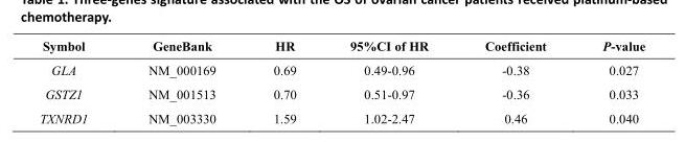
<table><thead><tr><td>Symbol</td><td>GeneBank</td><td>HR</td><td>95%CI of HR</td><td>Coefficient</td><td>P-value</td></tr></thead><tbody><tr><td>GLA</td><td>NM_000169</td><td>0.69</td><td>0.49-0.96</td><td>-0.38</td><td>0.027</td></tr><tr><td>GSTZ1</td><td>NM_001513</td><td>0.70</td><td>0.51-0.97</td><td>-0.36</td><td>0.033</td></tr><tr><td>TXNRD1</td><td>NM_003330</td><td>1.59</td><td>1.02-2.47</td><td>0.46</td><td>0.040</td></tr></tbody></table>